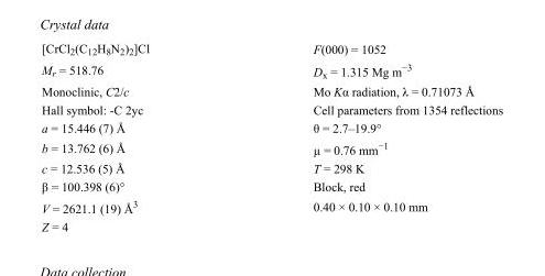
<table><tbody><tr><td>[CrCl<sub>2</sub>(C<sub>12</sub>H<sub>8</sub>N<sub>2</sub>)<sub>2</sub>]Cl</td><td>F(000) = 1052</td></tr><tr><td>M<sub>r</sub> = 518.76</td><td>D<sub>x</sub> = 1.315 Mg m<sup>−3</sup></td></tr><tr><td>Monoclinic, C2/c</td><td>Mo Kα radiation, λ = 0.71073 Å</td></tr><tr><td>Hall symbol: -C 2yc</td><td>Cell parameters from 1354 reflections</td></tr><tr><td>a = 15.446 (7) Å</td><td>θ = 2.7–19.9°</td></tr><tr><td>b = 13.762 (6) Å</td><td>µ = 0.76 mm<sup>−1</sup></td></tr><tr><td>c = 12.536 (5) Å</td><td>T = 298 K</td></tr><tr><td>β = 100.398 (6)°</td><td>Block, red</td></tr><tr><td>V = 2621.1 (19) Å<sup>3</sup></td><td>0.40 × 0.10 × 0.10 mm</td></tr><tr><td>Z = 4</td><td></td></tr></tbody></table>